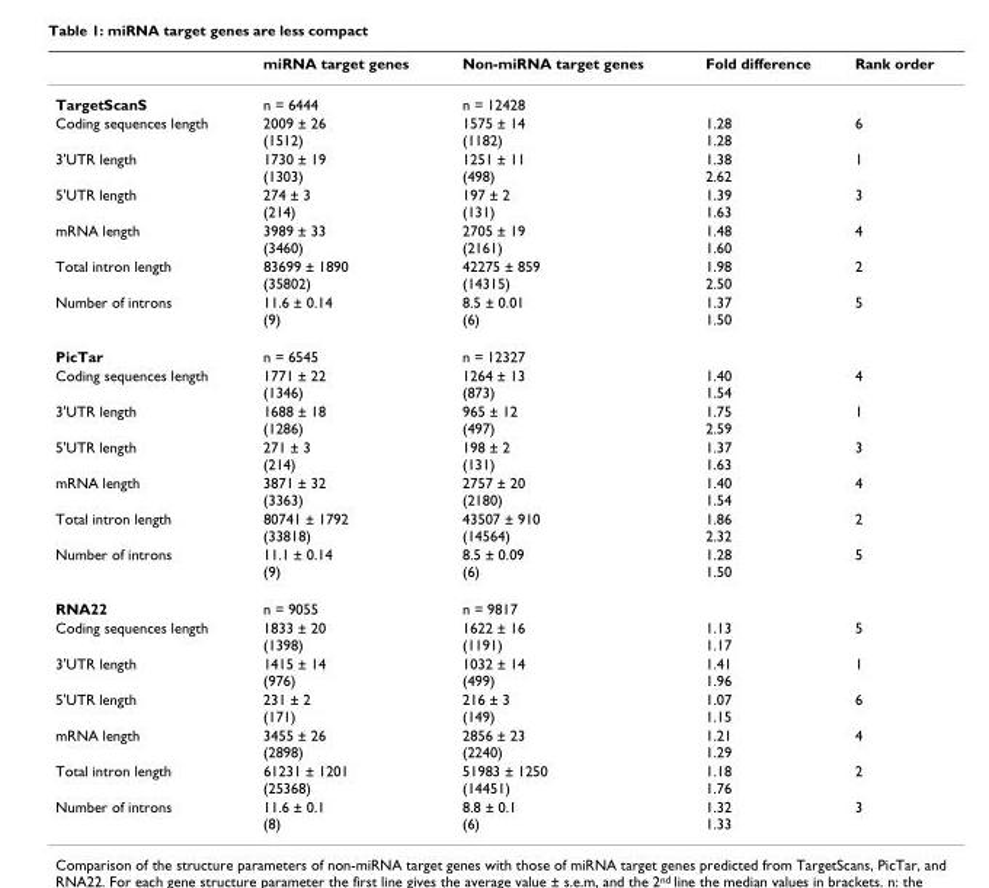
<table><thead><tr><td></td><td>miRNA target genes</td><td>Non-miRNA target genes</td><td>Fold difference</td><td>Rank order</td></tr></thead><tbody><tr><td>TargetScanS</td><td>n = 6444</td><td>n = 12428</td><td></td><td></td></tr><tr><td>Coding sequences length</td><td>2009 ± 26 (1512)</td><td>1575 ± 14 (1182)</td><td>1.28 1.28</td><td>6</td></tr><tr><td>3&#x27;UTR length</td><td>1730 ± 19 (1303)</td><td>1251 ± 11 (498)</td><td>1.38 2.62</td><td>1</td></tr><tr><td>5&#x27;UTR length</td><td>274 ± 3 (214)</td><td>197 ± 2 (131)</td><td>1.39 1.63</td><td>3</td></tr><tr><td>mRNA length</td><td>3989 ± 33 (3460)</td><td>2705 ± 19 (2161)</td><td>1.48 1.60</td><td>4</td></tr><tr><td>Total intron length</td><td>83699 ± 1890 (35802)</td><td>42275 ± 859 (14315)</td><td>1.98 2.50</td><td>2</td></tr><tr><td>Number of introns</td><td>11.6 ± 0.14 (9)</td><td>8.5 ± 0.01 (6)</td><td>1.37 1.50</td><td>5</td></tr><tr><td>PicTar</td><td>n = 6545</td><td>n = 12327</td><td></td><td></td></tr><tr><td>Coding sequences length</td><td>1771 ± 22 (1346)</td><td>1264 ± 13 (873)</td><td>1.40 1.54</td><td>4</td></tr><tr><td>3&#x27;UTR length</td><td>1688 ± 18 (1286)</td><td>965 ± 12 (497)</td><td>1.75 2.59</td><td>1</td></tr><tr><td>5&#x27;UTR length</td><td>271 ± 3 (214)</td><td>198 ± 2 (131)</td><td>1.37 1.63</td><td>3</td></tr><tr><td>mRNA length</td><td>3871 ± 32 (3363)</td><td>2757 ± 20 (2180)</td><td>1.40 1.54</td><td>4</td></tr><tr><td>Total intron length</td><td>80741 ± 1792 (33818)</td><td>43507 ± 910 (14564)</td><td>1.86 2.32</td><td>2</td></tr><tr><td>Number of introns</td><td>11.1 ± 0.14 (9)</td><td>8.5 ± 0.09 (6)</td><td>1.28 1.50</td><td>5</td></tr><tr><td>RNA22</td><td>n = 9055</td><td>n = 9817</td><td></td><td></td></tr><tr><td>Coding sequences length</td><td>1833 ± 20 (1398)</td><td>1622 ± 16 (1191)</td><td>1.13 1.17</td><td>5</td></tr><tr><td>3&#x27;UTR length</td><td>1415 ± 14 (976)</td><td>1032 ± 14 (499)</td><td>1.41 1.96</td><td>1</td></tr><tr><td>5&#x27;UTR length</td><td>231 ± 2 (171)</td><td>216 ± 3 (149)</td><td>1.07 1.15</td><td>6</td></tr><tr><td>mRNA length</td><td>3455 ± 26 (2898)</td><td>2856 ± 23 (2240)</td><td>1.21 1.29</td><td>4</td></tr><tr><td>Total intron length</td><td>61231 ± 1201 (25368)</td><td>51983 ± 1250 (14451)</td><td>1.18 1.76</td><td>2</td></tr><tr><td>Number of introns</td><td>11.6 ± 0.1 (8)</td><td>8.8 ± 0.1 (6)</td><td>1.32 1.33</td><td>3</td></tr></tbody></table>